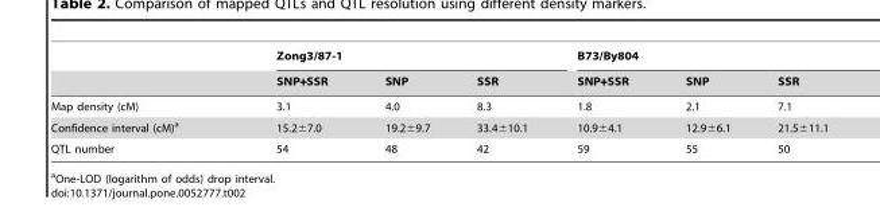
<table><thead><tr><td rowspan="2"></td><td colspan="3">Zong3/87-1</td><td colspan="3">B73/By804</td></tr><tr><td>SNP+SSR</td><td>SNP</td><td>SSR</td><td>SNP+SSR</td><td>SNP</td><td>SSR</td></tr></thead><tbody><tr><td>Map density (cM)</td><td>3.1</td><td>4.0</td><td>8.3</td><td>1.8</td><td>2.1</td><td>7.1</td></tr><tr><td>Confidence interval (cM)<sup>a</sup></td><td>15.2±7.0</td><td>19.2±9.7</td><td>33.4±10.1</td><td>10.9±4.1</td><td>12.9±6.1</td><td>21.5±11.1</td></tr><tr><td>QTL number</td><td>54</td><td>48</td><td>42</td><td>59</td><td>55</td><td>50</td></tr></tbody></table>